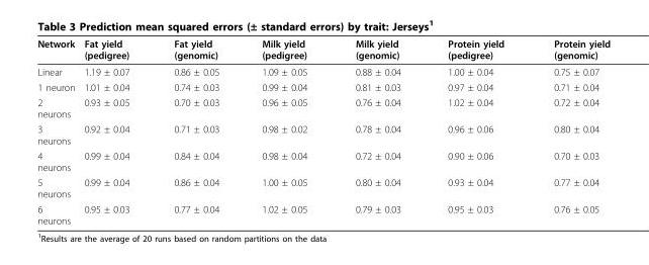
<table><thead><tr><td>Network</td><td>Fat yield (pedigree)</td><td>Fat yield (genomic)</td><td>Milk yield (pedigree)</td><td>Milk yield (genomic)</td><td>Protein yield (pedigree)</td><td>Protein yield (genomic)</td></tr></thead><tbody><tr><td>Linear</td><td>1.19 ± 0.07</td><td>0.86 ± 0.05</td><td>1.09 ± 0.05</td><td>0.88 ± 0.04</td><td>1.00 ± 0.04</td><td>0.75 ± 0.07</td></tr><tr><td>1 neuron</td><td>1.01 ± 0.04</td><td>0.74 ± 0.03</td><td>0.99 ± 0.04</td><td>0.81 ± 0.03</td><td>0.97 ± 0.04</td><td>0.71 ± 0.04</td></tr><tr><td>2 neurons</td><td>0.93 ± 0.05</td><td>0.70 ± 0.03</td><td>0.96 ± 0.05</td><td>0.76 ± 0.04</td><td>1.02 ± 0.04</td><td>0.72 ± 0.04</td></tr><tr><td>3 neurons</td><td>0.92 ± 0.04</td><td>0.71 ± 0.03</td><td>0.98 ± 0.02</td><td>0.78 ± 0.04</td><td>0.96 ± 0.06</td><td>0.80 ± 0.04</td></tr><tr><td>4 neurons</td><td>0.99 ± 0.04</td><td>0.84 ± 0.04</td><td>0.98 ± 0.04</td><td>0.72 ± 0.04</td><td>0.90 ± 0.06</td><td>0.70 ± 0.03</td></tr><tr><td>5 neurons</td><td>0.99 ± 0.04</td><td>0.86 ± 0.04</td><td>1.00 ± 0.05</td><td>0.80 ± 0.04</td><td>0.93 ± 0.04</td><td>0.77 ± 0.04</td></tr><tr><td>6 neurons</td><td>0.95 ± 0.03</td><td>0.77 ± 0.04</td><td>1.02 ± 0.05</td><td>0.79 ± 0.03</td><td>0.95 ± 0.03</td><td>0.76 ± 0.05</td></tr></tbody></table>